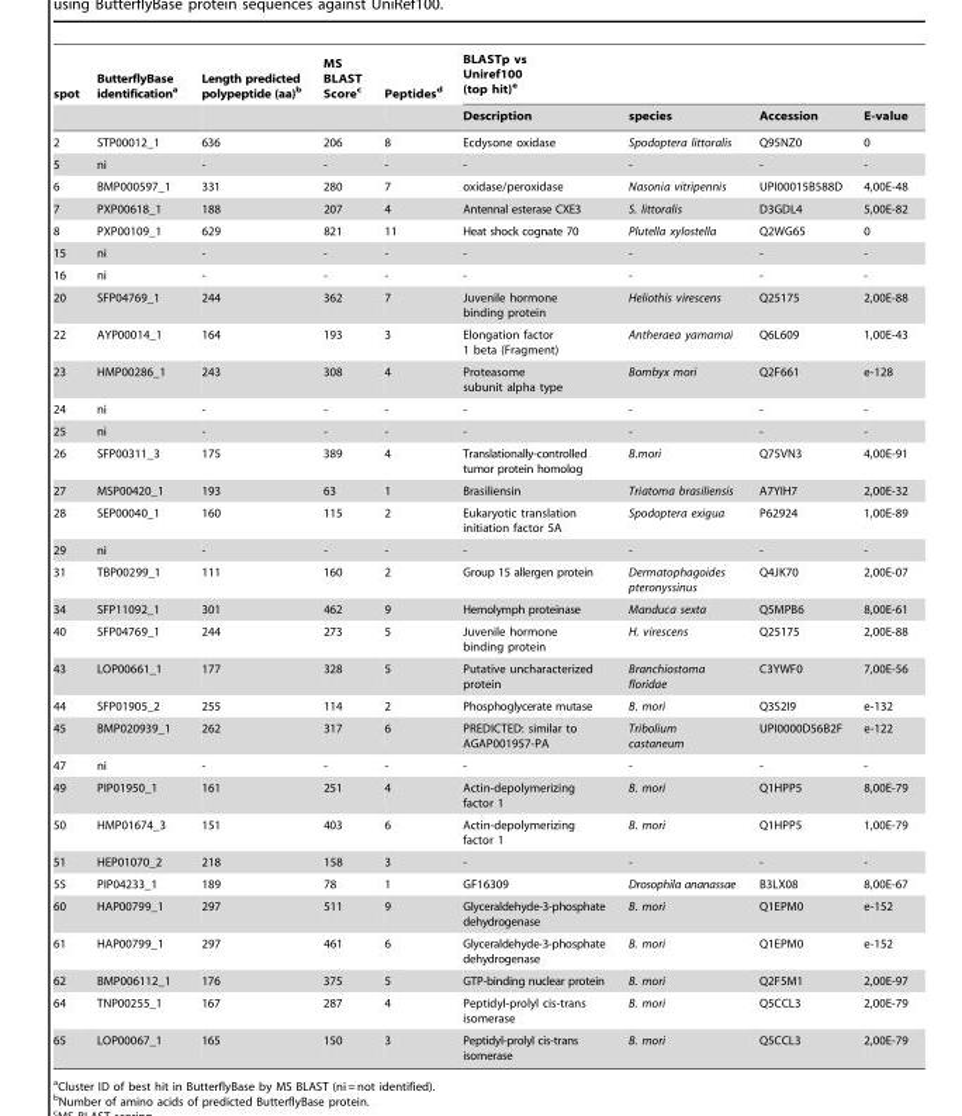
<table><thead><tr><td rowspan="2">spot</td><td rowspan="2">ButterflyBase identification<sup>a</sup></td><td rowspan="2">Length predicted polypeptide (aa)<sup>b</sup></td><td rowspan="2">MS BLAST Score<sup>c</sup></td><td rowspan="2">Peptides<sup>d</sup></td><td colspan="4">BLASTp vs Uniref100 (top hit)<sup>e</sup></td></tr><tr><td>Description</td><td>species</td><td>Accession</td><td>E-value</td></tr></thead><tbody><tr><td>2</td><td>STP00012_1</td><td>636</td><td>206</td><td>8</td><td>Ecdysone oxidase</td><td>Spodoptera littoralis</td><td>Q95NZ0</td><td>0</td></tr><tr><td>5</td><td>ni</td><td>-</td><td>-</td><td>-</td><td>-</td><td>-</td><td>-</td><td>-</td></tr><tr><td>6</td><td>BMP000597_1</td><td>331</td><td>280</td><td>7</td><td>oxidase/peroxidase</td><td>Nasonia vitripennis</td><td>UPI00015B588D</td><td>4,00E-48</td></tr><tr><td>7</td><td>PXP00618_1</td><td>188</td><td>207</td><td>4</td><td>Antennal esterase CXE3</td><td>S. littoralis</td><td>D3GDL4</td><td>5,00E-82</td></tr><tr><td>8</td><td>PXP00109_1</td><td>629</td><td>821</td><td>11</td><td>Heat shock cognate 70</td><td>Plutella xylostella</td><td>Q2WG65</td><td>0</td></tr><tr><td>15</td><td>ni</td><td>-</td><td>-</td><td>-</td><td>-</td><td>-</td><td>-</td><td>-</td></tr><tr><td>16</td><td>ni</td><td>-</td><td>-</td><td>-</td><td>-</td><td>-</td><td>-</td><td>-</td></tr><tr><td>20</td><td>SFP04769_1</td><td>244</td><td>362</td><td>7</td><td>Juvenile hormone binding protein</td><td>Heliothis virescens</td><td>Q25175</td><td>2,00E-88</td></tr><tr><td>22</td><td>AYP00014_1</td><td>164</td><td>193</td><td>3</td><td>Elongation factor 1 beta (Fragment)</td><td>Antheraea yamamai</td><td>Q6L609</td><td>1,00E-43</td></tr><tr><td>23</td><td>HMP00286_1</td><td>243</td><td>308</td><td>4</td><td>Proteasome subunit alpha type</td><td>Bombyx mori</td><td>Q2F661</td><td>e-128</td></tr><tr><td>24</td><td>ni</td><td>-</td><td>-</td><td>-</td><td>-</td><td>-</td><td>-</td><td>-</td></tr><tr><td>25</td><td>ni</td><td>-</td><td>-</td><td>-</td><td>-</td><td>-</td><td>-</td><td>-</td></tr><tr><td>26</td><td>SFP00311_3</td><td>175</td><td>389</td><td>4</td><td>Translationally-controlled tumor protein homolog</td><td>B.mori</td><td>Q75VN3</td><td>4,00E-91</td></tr><tr><td>27</td><td>MSP00420_1</td><td>193</td><td>63</td><td>1</td><td>Brasiliensin</td><td>Triatoma brasiliensis</td><td>A7YIH7</td><td>2,00E-32</td></tr><tr><td>28</td><td>SEP00040_1</td><td>160</td><td>115</td><td>2</td><td>Eukaryotic translation initiation factor 5A</td><td>Spodoptera exigua</td><td>P62924</td><td>1,00E-89</td></tr><tr><td>29</td><td>ni</td><td>-</td><td>-</td><td>-</td><td>-</td><td>-</td><td>-</td><td>-</td></tr><tr><td>31</td><td>TBP00299_1</td><td>111</td><td>160</td><td>2</td><td>Group 15 allergen protein</td><td>Dermatophagoides pteronyssinus</td><td>Q4JK70</td><td>2,00E-07</td></tr><tr><td>34</td><td>SFP11092_1</td><td>301</td><td>462</td><td>9</td><td>Hemolymph proteinase</td><td>Manduca sexta</td><td>Q5MPB6</td><td>8,00E-61</td></tr><tr><td>40</td><td>SFP04769_1</td><td>244</td><td>273</td><td>5</td><td>Juvenile hormone binding protein</td><td>H. virescens</td><td>Q25175</td><td>2,00E-88</td></tr><tr><td>43</td><td>LOP00661_1</td><td>177</td><td>328</td><td>5</td><td>Putative uncharacterized protein</td><td>Branchiostoma floridae</td><td>C3YWF0</td><td>7,00E-56</td></tr><tr><td>44</td><td>SFP01905_2</td><td>255</td><td>114</td><td>2</td><td>Phosphoglycerate mutase</td><td>B. mori</td><td>Q3S2I9</td><td>e-132</td></tr><tr><td>45</td><td>BMP020939_1</td><td>262</td><td>317</td><td>6</td><td>PREDICTED: similar to AGAP001957-PA</td><td>Tribolium castaneum</td><td>UPI0000D56B2F</td><td>e-122</td></tr><tr><td>47</td><td>ni</td><td>-</td><td>-</td><td>-</td><td>-</td><td>-</td><td>-</td><td>-</td></tr><tr><td>49</td><td>PIP01950_1</td><td>161</td><td>251</td><td>4</td><td>Actin-depolymerizing factor 1</td><td>B. mori</td><td>Q1HPP5</td><td>8,00E-79</td></tr><tr><td>50</td><td>HMP01674_3</td><td>151</td><td>403</td><td>6</td><td>Actin-depolymerizing factor 1</td><td>B. mori</td><td>Q1HPP5</td><td>1,00E-79</td></tr><tr><td>51</td><td>HEP01070_2</td><td>218</td><td>158</td><td>3</td><td>-</td><td>-</td><td>-</td><td>-</td></tr><tr><td>55</td><td>PIP04233_1</td><td>189</td><td>78</td><td>1</td><td>GF16309</td><td>Drosophila ananassae</td><td>B3LX08</td><td>8,00E-67</td></tr><tr><td>60</td><td>HAP00799_1</td><td>297</td><td>511</td><td>9</td><td>Glyceraldehyde-3-phosphate dehydrogenase</td><td>B. mori</td><td>Q1EPM0</td><td>e-152</td></tr><tr><td>61</td><td>HAP00799_1</td><td>297</td><td>461</td><td>6</td><td>Glyceraldehyde-3-phosphate dehydrogenase</td><td>B. mori</td><td>Q1EPM0</td><td>e-152</td></tr><tr><td>62</td><td>BMP006112_1</td><td>176</td><td>375</td><td>5</td><td>GTP-binding nuclear protein</td><td>B. mori</td><td>Q2F5M1</td><td>2,00E-97</td></tr><tr><td>64</td><td>TNP00255_1</td><td>167</td><td>287</td><td>4</td><td>Peptidyl-prolyl cis-trans isomerase</td><td>B. mori</td><td>Q5CCL3</td><td>2,00E-79</td></tr><tr><td>65</td><td>LOP00067_1</td><td>165</td><td>150</td><td>3</td><td>Peptidyl-prolyl cis-trans isomerase</td><td>B. mori</td><td>Q5CCL3</td><td>2,00E-79</td></tr></tbody></table>